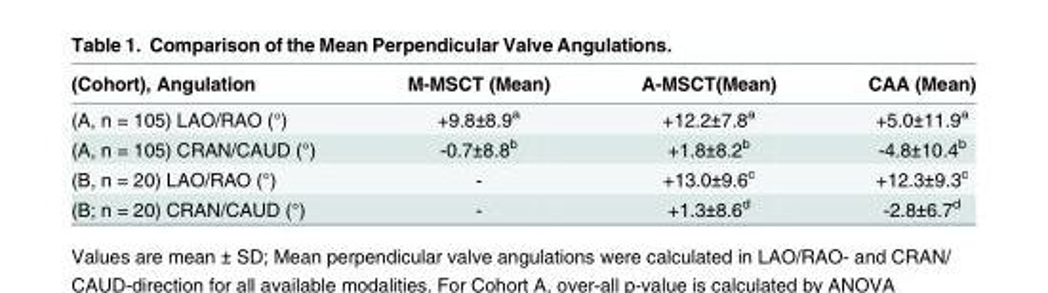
<table><thead><tr><td>(Cohort), Angulation</td><td>M-MSCT (Mean)</td><td>A-MSCT(Mean)</td><td>CAA (Mean)</td></tr></thead><tbody><tr><td>(A, n = 105) LAO/RAO (°)</td><td>+9.8±8.9<sup>a</sup></td><td>+12.2±7.8<sup>a</sup></td><td>+5.0±11.9<sup>a</sup></td></tr><tr><td>(A, n = 105) CRAN/CAUD (°)</td><td>-0.7±8.8<sup>b</sup></td><td>+1.8±8.2<sup>b</sup></td><td>-4.8±10.4<sup>b</sup></td></tr><tr><td>(B, n = 20) LAO/RAO (°)</td><td>-</td><td>+13.0±9.6<sup>c</sup></td><td>+12.3±9.3<sup>c</sup></td></tr><tr><td>(B; n = 20) CRAN/CAUD (°)</td><td>-</td><td>+1.3±8.6<sup>d</sup></td><td>-2.8±6.7<sup>d</sup></td></tr></tbody></table>